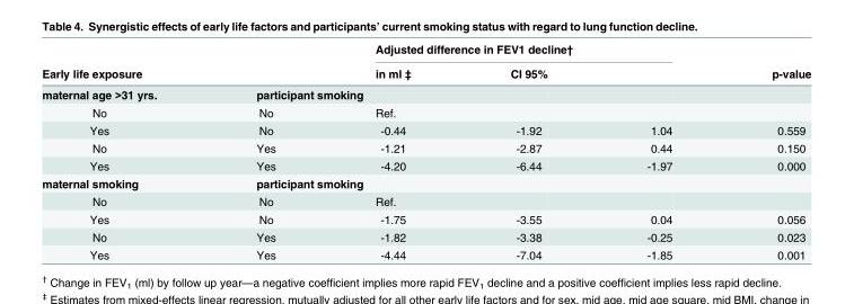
<table><thead><tr><td rowspan="2">Early life exposure</td><td rowspan="2"></td><td colspan="3">Adjusted difference in FEV1 decline†</td><td rowspan="2">p-value</td></tr><tr><td>in ml ‡</td><td>CI 95%</td><td></td></tr></thead><tbody><tr><td>maternal age &gt;31 yrs.</td><td colspan="2">participant smoking</td><td></td><td></td><td></td></tr><tr><td>No</td><td>No</td><td>Ref.</td><td></td><td></td><td></td></tr><tr><td>Yes</td><td>No</td><td>-0.44</td><td>-1.92</td><td>1.04</td><td>0.559</td></tr><tr><td>No</td><td>Yes</td><td>-1.21</td><td>-2.87</td><td>0.44</td><td>0.150</td></tr><tr><td>Yes</td><td>Yes</td><td>-4.20</td><td>-6.44</td><td>-1.97</td><td>0.000</td></tr><tr><td>maternal smoking</td><td colspan="2">participant smoking</td><td></td><td></td><td></td></tr><tr><td>No</td><td>No</td><td>Ref.</td><td></td><td></td><td></td></tr><tr><td>Yes</td><td>No</td><td>-1.75</td><td>-3.55</td><td>0.04</td><td>0.056</td></tr><tr><td>No</td><td>Yes</td><td>-1.82</td><td>-3.38</td><td>-0.25</td><td>0.023</td></tr><tr><td>Yes</td><td>Yes</td><td>-4.44</td><td>-7.04</td><td>-1.85</td><td>0.001</td></tr></tbody></table>